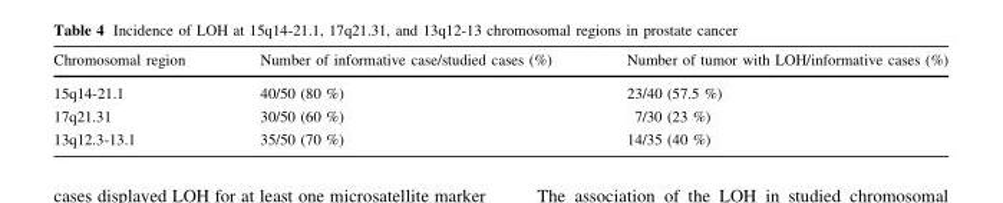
<table><thead><tr><td>Chromosomal region</td><td>Number of informative case/studied cases (%)</td><td>Number of tumor with LOH/informative cases (%)</td></tr></thead><tbody><tr><td>15q14-21.1</td><td>40/50 (80 %)</td><td>23/40 (57.5 %)</td></tr><tr><td>17q21.31</td><td>30/50 (60 %)</td><td>7/30 (23 %)</td></tr><tr><td>13q12.3-13.1</td><td>35/50 (70 %)</td><td>14/35 (40 %)</td></tr></tbody></table>